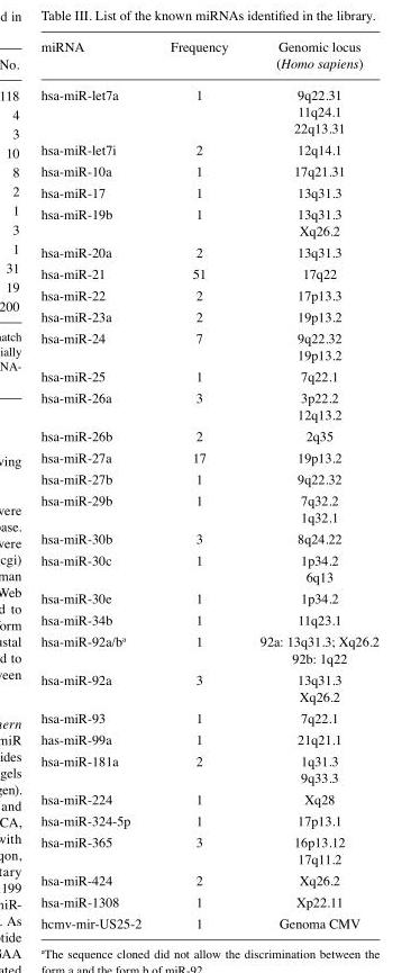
<table><thead><tr><td>miRNA</td><td>Frequency</td><td>Genomic locus (Homo sapiens)</td></tr></thead><tbody><tr><td rowspan="3">hsa-miR-let7a</td><td>1</td><td>9q22.31</td></tr><tr><td></td><td>11q24.1</td></tr><tr><td></td><td>22q13.31</td></tr><tr><td>hsa-miR-let7i</td><td>2</td><td>12q14.1</td></tr><tr><td>hsa-miR-10a</td><td>1</td><td>17q21.31</td></tr><tr><td>hsa-miR-17</td><td>1</td><td>13q31.3</td></tr><tr><td rowspan="2">hsa-miR-19b</td><td>1</td><td>13q31.3</td></tr><tr><td></td><td>Xq26.2</td></tr><tr><td>hsa-miR-20a</td><td>2</td><td>13q31.3</td></tr><tr><td>hsa-miR-21</td><td>51</td><td>17q22</td></tr><tr><td>hsa-miR-22</td><td>2</td><td>17p13.3</td></tr><tr><td>hsa-miR-23a</td><td>2</td><td>19p13.2</td></tr><tr><td rowspan="2">hsa-miR-24</td><td>7</td><td>9q22.32</td></tr><tr><td></td><td>19p13.2</td></tr><tr><td>hsa-miR-25</td><td>1</td><td>7q22.1</td></tr><tr><td rowspan="2">hsa-miR-26a</td><td>3</td><td>3p22.2</td></tr><tr><td></td><td>12q13.2</td></tr><tr><td>hsa-miR-26b</td><td>2</td><td>2q35</td></tr><tr><td>hsa-miR-27a</td><td>17</td><td>19p13.2</td></tr><tr><td>hsa-miR-27b</td><td>1</td><td>9q22.32</td></tr><tr><td rowspan="2">hsa-miR-29b</td><td>1</td><td>7q32.2</td></tr><tr><td></td><td>1q32.1</td></tr><tr><td>hsa-miR-30b</td><td>3</td><td>8q24.22</td></tr><tr><td rowspan="2">hsa-miR-30c</td><td>1</td><td>1p34.2</td></tr><tr><td></td><td>6q13</td></tr><tr><td>hsa-miR-30e</td><td>1</td><td>1p34.2</td></tr><tr><td>hsa-miR-34b</td><td>1</td><td>11q23.1</td></tr><tr><td rowspan="2">hsa-miR-92a/b<sup>a</sup></td><td>1</td><td>92a: 13q31.3; Xq26.2</td></tr><tr><td></td><td>92b: 1q22</td></tr><tr><td rowspan="2">hsa-miR-92a</td><td>3</td><td>13q31.3</td></tr><tr><td></td><td>Xq26.2</td></tr><tr><td>hsa-miR-93</td><td>1</td><td>7q22.1</td></tr><tr><td>has-miR-99a</td><td>1</td><td>21q21.1</td></tr><tr><td rowspan="2">hsa-miR-181a</td><td>2</td><td>1q31.3</td></tr><tr><td></td><td>9q33.3</td></tr><tr><td>hsa-miR-224</td><td>1</td><td>Xq28</td></tr><tr><td>hsa-miR-324-5p</td><td>1</td><td>17p13.1</td></tr><tr><td rowspan="2">hsa-miR-365</td><td>3</td><td>16p13.12</td></tr><tr><td></td><td>17q11.2</td></tr><tr><td>hsa-miR-424</td><td>2</td><td>Xq26.2</td></tr><tr><td>hsa-miR-1308</td><td>1</td><td>Xp22.11</td></tr><tr><td>hcmv-mir-US25-2</td><td>1</td><td>Genoma CMV</td></tr></tbody></table>